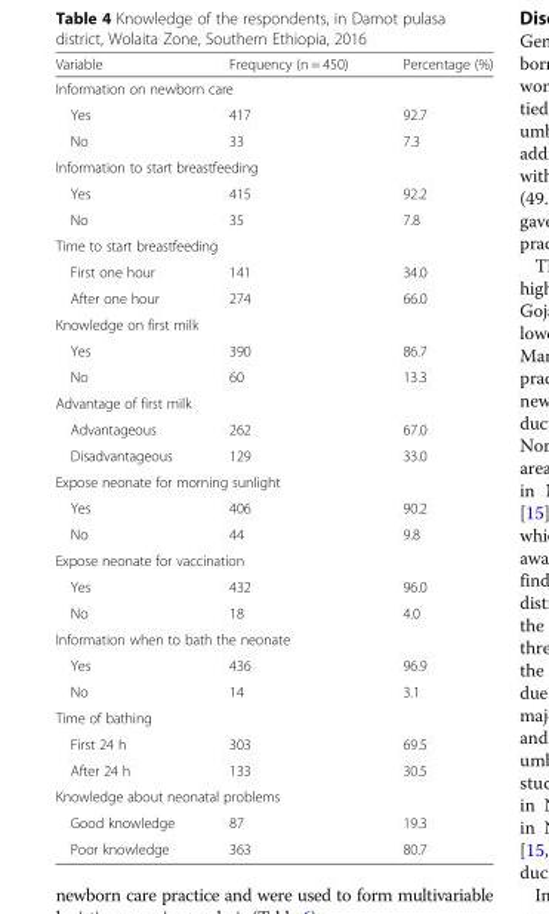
<table><thead><tr><td>Variable</td><td>Frequency (n = 450)</td><td>Percentage (%)</td></tr></thead><tbody><tr><td colspan="3">Information on newborn care</td></tr><tr><td>Yes</td><td>417</td><td>92.7</td></tr><tr><td>No</td><td>33</td><td>7.3</td></tr><tr><td colspan="3">Information to start breastfeeding</td></tr><tr><td>Yes</td><td>415</td><td>92.2</td></tr><tr><td>No</td><td>35</td><td>7.8</td></tr><tr><td colspan="3">Time to start breastfeeding</td></tr><tr><td>First one hour</td><td>141</td><td>34.0</td></tr><tr><td>After one hour</td><td>274</td><td>66.0</td></tr><tr><td colspan="3">Knowledge on first milk</td></tr><tr><td>Yes</td><td>390</td><td>86.7</td></tr><tr><td>No</td><td>60</td><td>13.3</td></tr><tr><td colspan="3">Advantage of first milk</td></tr><tr><td>Advantageous</td><td>262</td><td>67.0</td></tr><tr><td>Disadvantageous</td><td>129</td><td>33.0</td></tr><tr><td colspan="3">Expose neonate for morning sunlight</td></tr><tr><td>Yes</td><td>406</td><td>90.2</td></tr><tr><td>No</td><td>44</td><td>9.8</td></tr><tr><td colspan="3">Expose neonate for vaccination</td></tr><tr><td>Yes</td><td>432</td><td>96.0</td></tr><tr><td>No</td><td>18</td><td>4.0</td></tr><tr><td colspan="3">Information when to bath the neonate</td></tr><tr><td>Yes</td><td>436</td><td>96.9</td></tr><tr><td>No</td><td>14</td><td>3.1</td></tr><tr><td colspan="3">Time of bathing</td></tr><tr><td>First 24 h</td><td>303</td><td>69.5</td></tr><tr><td>After 24 h</td><td>133</td><td>30.5</td></tr><tr><td colspan="3">Knowledge about neonatal problems</td></tr><tr><td>Good knowledge</td><td>87</td><td>19.3</td></tr><tr><td>Poor knowledge</td><td>363</td><td>80.7</td></tr></tbody></table>